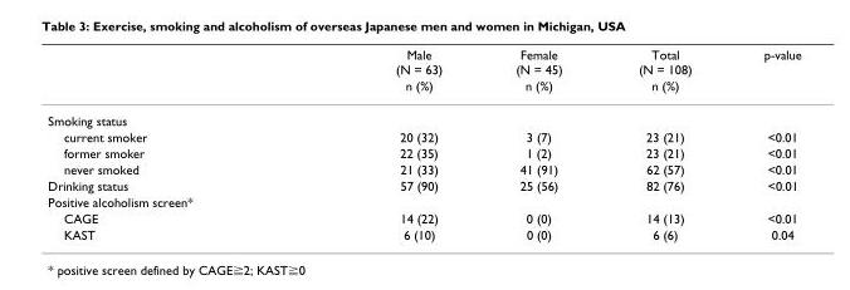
<table><thead><tr><td rowspan="2"></td><td rowspan="2">Male (N = 63) n (%)</td><td rowspan="2">Female (N = 45) n (%)</td><td rowspan="2">Total (N = 108) n (%)</td><td rowspan="2">p-value</td></tr><tr></tr></thead><tbody><tr><td colspan="5">Smoking status</td></tr><tr><td>current smoker</td><td>20 (32)</td><td>3 (7)</td><td>23 (21)</td><td>&lt;0.01</td></tr><tr><td>former smoker</td><td>22 (35)</td><td>1 (2)</td><td>23 (21)</td><td>&lt;0.01</td></tr><tr><td>never smoked</td><td>21 (33)</td><td>41 (91)</td><td>62 (57)</td><td>&lt;0.01</td></tr><tr><td>Drinking status</td><td>57 (90)</td><td>25 (56)</td><td>82 (76)</td><td>&lt;0.01</td></tr><tr><td colspan="5">Positive alcoholism screen*</td></tr><tr><td>CAGE</td><td>14 (22)</td><td>0 (0)</td><td>14 (13)</td><td>&lt;0.01</td></tr><tr><td>KAST</td><td>6 (10)</td><td>0 (0)</td><td>6 (6)</td><td>0.04</td></tr></tbody></table>